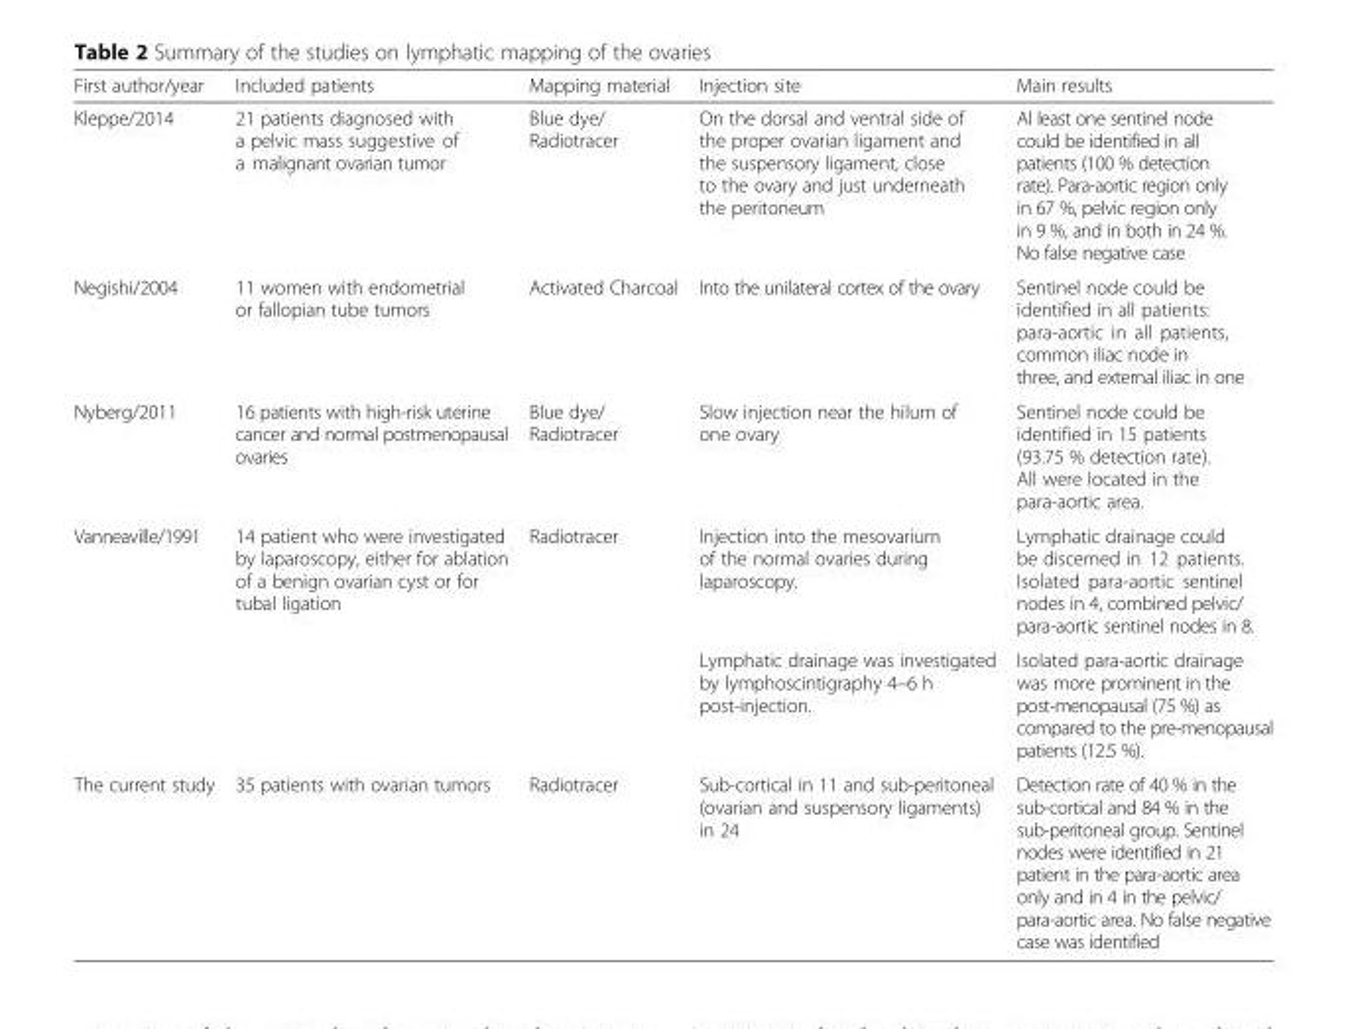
<table><thead><tr><td>First author/year</td><td>Included patients</td><td>Mapping material</td><td>Injection site</td><td>Main results</td></tr></thead><tbody><tr><td>Kleppe/2014</td><td>21 patients diagnosed with a pelvic mass suggestive of a malignant ovarian tumor</td><td>Blue dye/ Radiotracer</td><td>On the dorsal and ventral side of the proper ovarian ligament and the suspensory ligament, close to the ovary and just underneath the peritoneum</td><td>Al least one sentinel node could be identified in all patients (100 % detection rate). Para-aortic region only in 67 %, pelvic region only in 9 %, and in both in 24 %. No false negative case</td></tr><tr><td>Negishi/2004</td><td>11 women with endometrial or fallopian tube tumors</td><td>Activated Charcoal</td><td>Into the unilateral cortex of the ovary</td><td>Sentinel node could be identified in all patients: para-aortic in all patients, common iliac node in three, and external iliac in one</td></tr><tr><td>Nyberg/2011</td><td>16 patients with high-risk uterine cancer and normal postmenopausal ovaries</td><td>Blue dye/ Radiotracer</td><td>Slow injection near the hilum of one ovary</td><td>Sentinel node could be identified in 15 patients (93.75 % detection rate). All were located in the para-aortic area.</td></tr><tr><td rowspan="2">Vanneaville/1991</td><td rowspan="2">14 patient who were investigated by laparoscopy, either for ablation of a benign ovarian cyst or for tubal ligation</td><td rowspan="2">Radiotracer</td><td>Injection into the mesovarium of the normal ovaries during laparoscopy.</td><td>Lymphatic drainage could be discerned in 12 patients. Isolated para-aortic sentinel nodes in 4, combined pelvic/ para-aortic sentinel nodes in 8.</td></tr><tr><td>Lymphatic drainage was investigated by lymphoscintigraphy 4–6 h post-injection.</td><td>Isolated para-aortic drainage was more prominent in the post-menopausal (75 %) as compared to the pre-menopausal patients (12.5 %).</td></tr><tr><td>The current study</td><td>35 patients with ovarian tumors</td><td>Radiotracer</td><td>Sub-cortical in 11 and sub-peritoneal (ovarian and suspensory ligaments) in 24</td><td>Detection rate of 40 % in the sub-cortical and 84 % in the sub-peritoneal group. Sentinel nodes were identified in 21 patient in the para-aortic area only and in 4 in the pelvic/ para-aortic area. No false negative case was identified</td></tr></tbody></table>